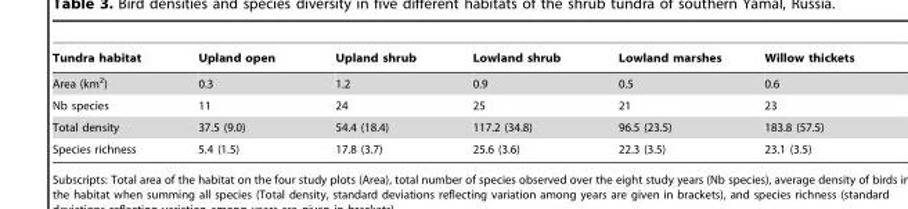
<table><thead><tr><td>Tundra habitat</td><td>Upland open</td><td>Upland shrub</td><td>Lowland shrub</td><td>Lowland marshes</td><td>Willow thickets</td></tr></thead><tbody><tr><td>Area (km<sup>2</sup>)</td><td>0.3</td><td>1.2</td><td>0.9</td><td>0.5</td><td>0.6</td></tr><tr><td>Nb species</td><td>11</td><td>24</td><td>25</td><td>21</td><td>23</td></tr><tr><td>Total density</td><td>37.5 (9.0)</td><td>54.4 (18.4)</td><td>117.2 (34.8)</td><td>96.5 (23.5)</td><td>183.8 (57.5)</td></tr><tr><td>Species richness</td><td>5.4 (1.5)</td><td>17.8 (3.7)</td><td>25.6 (3.6)</td><td>22.3 (3.5)</td><td>23.1 (3.5)</td></tr></tbody></table>